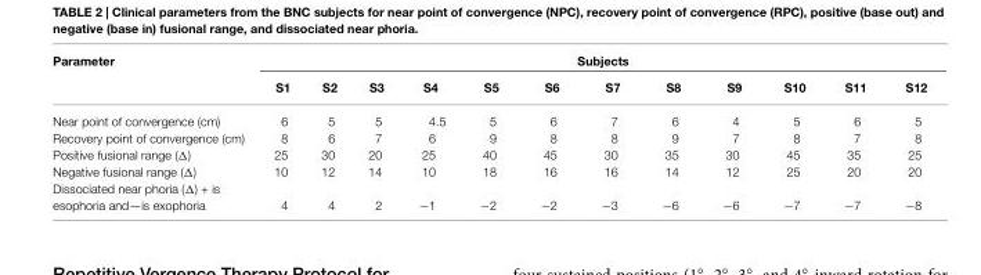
<table><thead><tr><td rowspan="2">Parameter</td><td colspan="12">Subjects</td></tr><tr><td>S1</td><td>S2</td><td>S3</td><td>S4</td><td>S5</td><td>S6</td><td>S7</td><td>S8</td><td>S9</td><td>S10</td><td>S11</td><td>S12</td></tr></thead><tbody><tr><td>Near point of convergence (cm)</td><td>6</td><td>5</td><td>5</td><td>4.5</td><td>5</td><td>6</td><td>7</td><td>6</td><td>4</td><td>5</td><td>6</td><td>5</td></tr><tr><td>Recovery point of convergence (cm)</td><td>8</td><td>6</td><td>7</td><td>6</td><td>9</td><td>8</td><td>8</td><td>9</td><td>7</td><td>8</td><td>7</td><td>8</td></tr><tr><td>Positive fusional range (∆)</td><td>25</td><td>30</td><td>20</td><td>25</td><td>40</td><td>45</td><td>30</td><td>35</td><td>30</td><td>45</td><td>35</td><td>25</td></tr><tr><td>Negative fusional range (∆)</td><td>10</td><td>12</td><td>14</td><td>10</td><td>18</td><td>16</td><td>16</td><td>14</td><td>12</td><td>25</td><td>20</td><td>20</td></tr><tr><td>Dissociated near phoria (∆) + is esophoria and—is exophoria</td><td>4</td><td>4</td><td>2</td><td>−1</td><td>−2</td><td>−2</td><td>−3</td><td>−6</td><td>−6</td><td>−7</td><td>−7</td><td>−8</td></tr></tbody></table>